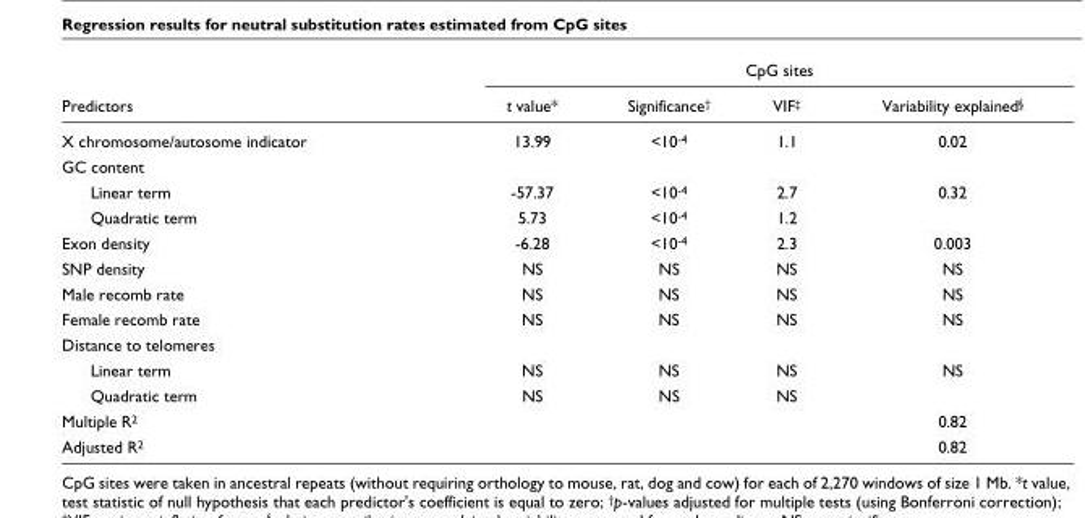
<table><thead><tr><td rowspan="2">Predictors</td><td colspan="4">CpG sites</td></tr><tr><td>t value*</td><td>Significance<sup>†</sup></td><td>VIF<sup>‡</sup></td><td>Variability explained<sup>§</sup></td></tr></thead><tbody><tr><td>X chromosome/autosome indicator</td><td>13.99</td><td>&lt;10<sup>-4</sup></td><td>1.1</td><td>0.02</td></tr><tr><td colspan="5">GC content</td></tr><tr><td>Linear term</td><td>-57.37</td><td>&lt;10<sup>-4</sup></td><td>2.7</td><td>0.32</td></tr><tr><td>Quadratic term</td><td>5.73</td><td>&lt;10<sup>-4</sup></td><td>1.2</td><td></td></tr><tr><td>Exon density</td><td>-6.28</td><td>&lt;10<sup>-4</sup></td><td>2.3</td><td>0.003</td></tr><tr><td>SNP density</td><td>NS</td><td>NS</td><td>NS</td><td>NS</td></tr><tr><td>Male recomb rate</td><td>NS</td><td>NS</td><td>NS</td><td>NS</td></tr><tr><td>Female recomb rate</td><td>NS</td><td>NS</td><td>NS</td><td>NS</td></tr><tr><td colspan="5">Distance to telomeres</td></tr><tr><td>Linear term</td><td>NS</td><td>NS</td><td>NS</td><td>NS</td></tr><tr><td>Quadratic term</td><td>NS</td><td>NS</td><td>NS</td><td></td></tr><tr><td>Multiple R<sup>2</sup></td><td></td><td></td><td></td><td>0.82</td></tr><tr><td>Adjusted R<sup>2</sup></td><td></td><td></td><td></td><td>0.82</td></tr></tbody></table>